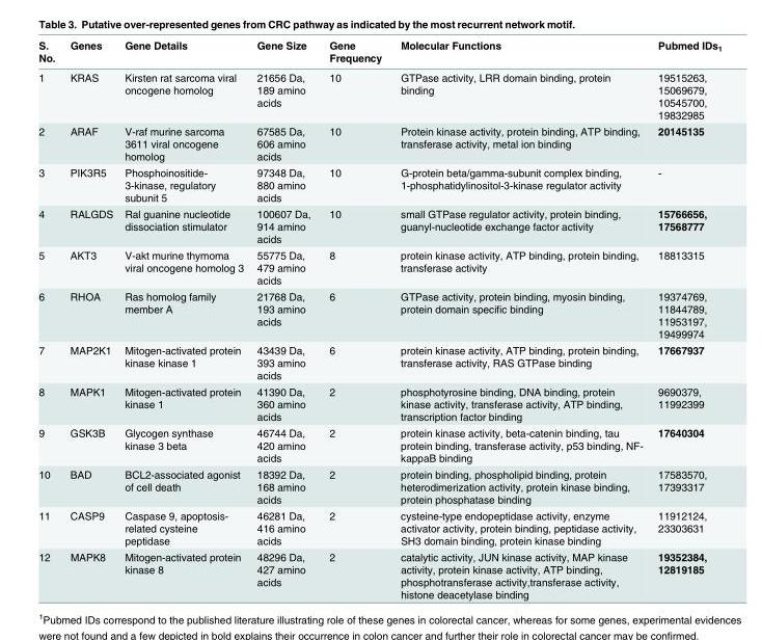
<table><thead><tr><td>S. No.</td><td>Genes</td><td>Gene Details</td><td>Gene Size</td><td>Gene Frequency</td><td>Molecular Functions</td><td>Pubmed IDs<sub>1</sub></td></tr></thead><tbody><tr><td>1</td><td>KRAS</td><td>Kirsten rat sarcoma viral oncogene homolog</td><td>21656 Da, 189 amino acids</td><td>10</td><td>GTPase activity, LRR domain binding, protein binding</td><td>19515263, 15069679, 10545700, 19832985</td></tr><tr><td>2</td><td>ARAF</td><td>V-raf murine sarcoma 3611 viral oncogene homolog</td><td>67585 Da, 606 amino acids</td><td>10</td><td>Protein kinase activity, protein binding, ATP binding, transferase activity, metal ion binding</td><td>20145135</td></tr><tr><td>3</td><td>PIK3R5</td><td>Phosphoinositide- 3-kinase, regulatory subunit 5</td><td>97348 Da, 880 amino acids</td><td>10</td><td>G-protein beta/gamma-subunit complex binding, 1-phosphatidylinositol-3-kinase regulator activity</td><td>-</td></tr><tr><td>4</td><td>RALGDS</td><td>Ral guanine nucleotide dissociation stimulator</td><td>100607 Da, 914 amino acids</td><td>10</td><td>small GTPase regulator activity, protein binding, guanyl-nucleotide exchange factor activity</td><td>15766656, 17568777</td></tr><tr><td>5</td><td>AKT3</td><td>V-akt murine thymoma viral oncogene homolog 3</td><td>55775 Da, 479 amino acids</td><td>8</td><td>protein kinase activity, ATP binding, protein binding, transferase activity</td><td>18813315</td></tr><tr><td>6</td><td>RHOA</td><td>Ras homolog family member A</td><td>21768 Da, 193 amino acids</td><td>6</td><td>GTPase activity, protein binding, myosin binding, protein domain specific binding</td><td>19374769, 11844789, 11953197, 19499974</td></tr><tr><td>7</td><td>MAP2K1</td><td>Mitogen-activated protein kinase kinase 1</td><td>43439 Da, 393 amino acids</td><td>6</td><td>protein kinase activity, ATP binding, protein binding, transferase activity, RAS GTPase binding</td><td>17667937</td></tr><tr><td>8</td><td>MAPK1</td><td>Mitogen-activated protein kinase 1</td><td>41390 Da, 360 amino acids</td><td>2</td><td>phosphotyrosine binding, DNA binding, protein kinase activity, transferase activity, ATP binding, transcription factor binding</td><td>9690379, 11992399</td></tr><tr><td>9</td><td>GSK3B</td><td>Glycogen synthase kinase 3 beta</td><td>46744 Da, 420 amino acids</td><td>2</td><td>protein kinase activity, beta-catenin binding, tau protein binding, transferase activity, p53 binding, NF- kappaB binding</td><td>17640304</td></tr><tr><td>10</td><td>BAD</td><td>BCL2-associated agonist of cell death</td><td>18392 Da, 168 amino acids</td><td>2</td><td>protein binding, phospholipid binding, protein heterodimerization activity, protein kinase binding, protein phosphatase binding</td><td>17583570, 17393317</td></tr><tr><td>11</td><td>CASP9</td><td>Caspase 9, apoptosis- related cysteine peptidase</td><td>46281 Da, 416 amino acids</td><td>2</td><td>cysteine-type endopeptidase activity, enzyme activator activity, protein binding, peptidase activity, SH3 domain binding, protein kinase binding</td><td>11912124, 23303631</td></tr><tr><td>12</td><td>MAPK8</td><td>Mitogen-activated protein kinase 8</td><td>48296 Da, 427 amino acids</td><td>2</td><td>catalytic activity, JUN kinase activity, MAP kinase activity, protein kinase activity, ATP binding, phosphotransferase activity,transferase activity, histone deacetylase binding</td><td>19352384, 12819185</td></tr></tbody></table>